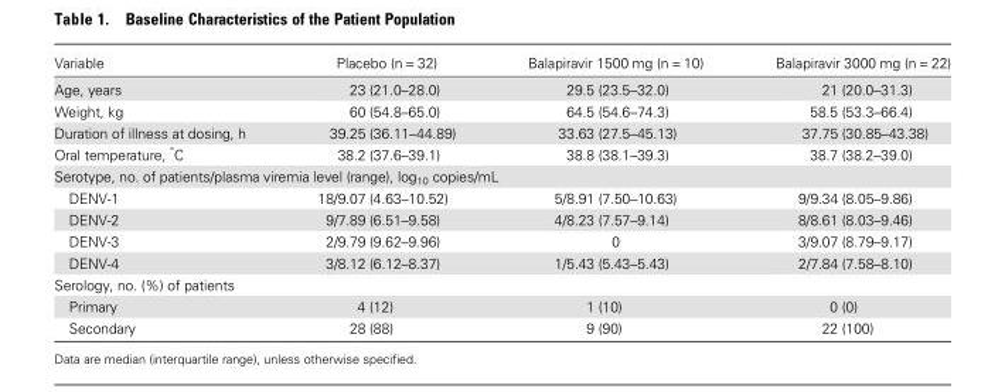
<table><thead><tr><td>Variable</td><td>Placebo (n = 32)</td><td>Balapiravir 1500 mg (n = 10)</td><td>Balapiravir 3000 mg (n = 22)</td></tr></thead><tbody><tr><td>Age, years</td><td>23 (21.0–28.0)</td><td>29.5 (23.5–32.0)</td><td>21 (20.0–31.3)</td></tr><tr><td>Weight, kg</td><td>60 (54.8–65.0)</td><td>64.5 (54.6–74.3)</td><td>58.5 (53.3–66.4)</td></tr><tr><td>Duration of illness at dosing, h</td><td>39.25 (36.11–44.89)</td><td>33.63 (27.5–45.13)</td><td>37.75 (30.85–43.38)</td></tr><tr><td>Oral temperature, <sup>°</sup>C</td><td>38.2 (37.6–39.1)</td><td>38.8 (38.1–39.3)</td><td>38.7 (38.2–39.0)</td></tr><tr><td colspan="4">Serotype, no. of patients/plasma viremia level (range), log<sub>10</sub> copies/mL</td></tr><tr><td>DENV-1</td><td>18/9.07 (4.63–10.52)</td><td>5/8.91 (7.50–10.63)</td><td>9/9.34 (8.05–9.86)</td></tr><tr><td>DENV-2</td><td>9/7.89 (6.51–9.58)</td><td>4/8.23 (7.57–9.14)</td><td>8/8.61 (8.03–9.46)</td></tr><tr><td>DENV-3</td><td>2/9.79 (9.62–9.96)</td><td>0</td><td>3/9.07 (8.79–9.17)</td></tr><tr><td>DENV-4</td><td>3/8.12 (6.12–8.37)</td><td>1/5.43 (5.43–5.43)</td><td>2/7.84 (7.58–8.10)</td></tr><tr><td colspan="4">Serology, no. (%) of patients</td></tr><tr><td>Primary</td><td>4 (12)</td><td>1 (10)</td><td>0 (0)</td></tr><tr><td>Secondary</td><td>28 (88)</td><td>9 (90)</td><td>22 (100)</td></tr></tbody></table>